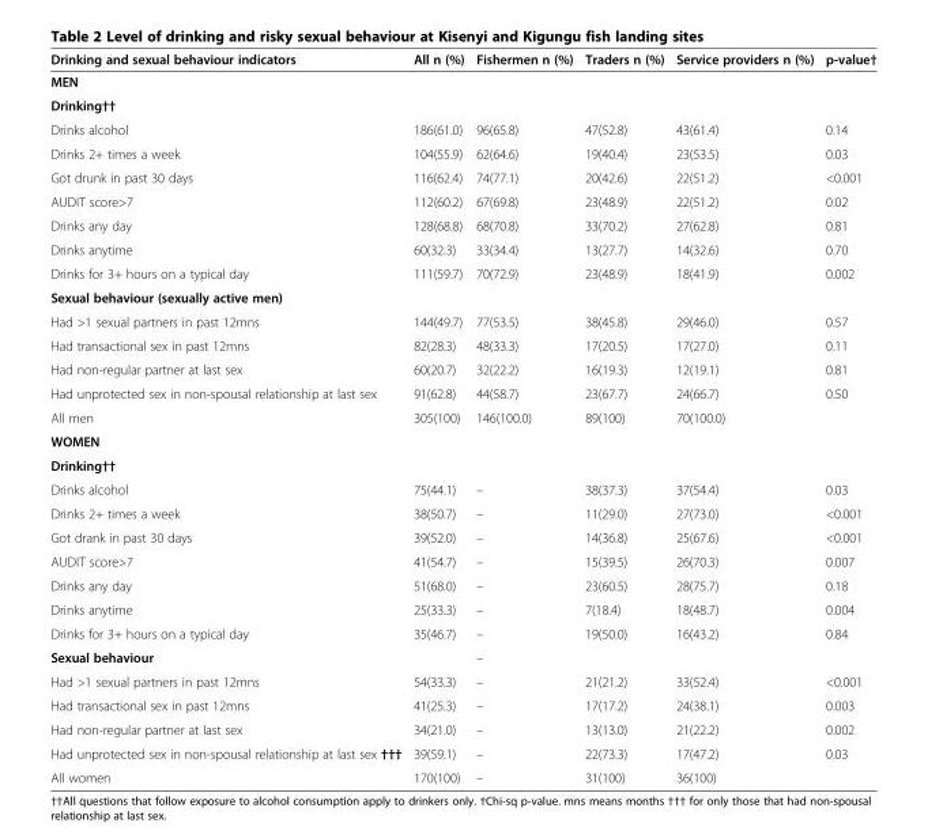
<table><thead><tr><td>Drinking and sexual behaviour indicators</td><td>All n (%)</td><td>Fishermen n (%)</td><td>Traders n (%)</td><td>Service providers n (%)</td><td>p-value†</td></tr></thead><tbody><tr><td colspan="6">MEN</td></tr><tr><td colspan="6">Drinking††</td></tr><tr><td>Drinks alcohol</td><td>186(61.0)</td><td>96(65.8)</td><td>47(52.8)</td><td>43(61.4)</td><td>0.14</td></tr><tr><td>Drinks 2+ times a week</td><td>104(55.9)</td><td>62(64.6)</td><td>19(40.4)</td><td>23(53.5)</td><td>0.03</td></tr><tr><td>Got drunk in past 30 days</td><td>116(62.4)</td><td>74(77.1)</td><td>20(42.6)</td><td>22(51.2)</td><td>&lt;0.001</td></tr><tr><td>AUDIT score&gt;7</td><td>112(60.2)</td><td>67(69.8)</td><td>23(48.9)</td><td>22(51.2)</td><td>0.02</td></tr><tr><td>Drinks any day</td><td>128(68.8)</td><td>68(70.8)</td><td>33(70.2)</td><td>27(62.8)</td><td>0.81</td></tr><tr><td>Drinks anytime</td><td>60(32.3)</td><td>33(34.4)</td><td>13(27.7)</td><td>14(32.6)</td><td>0.70</td></tr><tr><td>Drinks for 3+ hours on a typical day</td><td>111(59.7)</td><td>70(72.9)</td><td>23(48.9)</td><td>18(41.9)</td><td>0.002</td></tr><tr><td colspan="6">Sexual behaviour (sexually active men)</td></tr><tr><td>Had &gt;1 sexual partners in past 12mns</td><td>144(49.7)</td><td>77(53.5)</td><td>38(45.8)</td><td>29(46.0)</td><td>0.57</td></tr><tr><td>Had transactional sex in past 12mns</td><td>82(28.3)</td><td>48(33.3)</td><td>17(20.5)</td><td>17(27.0)</td><td>0.11</td></tr><tr><td>Had non-regular partner at last sex</td><td>60(20.7)</td><td>32(22.2)</td><td>16(19.3)</td><td>12(19.1)</td><td>0.81</td></tr><tr><td>Had unprotected sex in non-spousal relationship at last sex</td><td>91(62.8)</td><td>44(58.7)</td><td>23(67.7)</td><td>24(66.7)</td><td>0.50</td></tr><tr><td>All men</td><td>305(100)</td><td>146(100.0)</td><td>89(100)</td><td>70(100.0)</td><td></td></tr><tr><td colspan="6">WOMEN</td></tr><tr><td colspan="6">Drinking††</td></tr><tr><td>Drinks alcohol</td><td>75(44.1)</td><td>–</td><td>38(37.3)</td><td>37(54.4)</td><td>0.03</td></tr><tr><td>Drinks 2+ times a week</td><td>38(50.7)</td><td>–</td><td>11(29.0)</td><td>27(73.0)</td><td>&lt;0.001</td></tr><tr><td>Got drank in past 30 days</td><td>39(52.0)</td><td>–</td><td>14(36.8)</td><td>25(67.6)</td><td>&lt;0.001</td></tr><tr><td>AUDIT score&gt;7</td><td>41(54.7)</td><td>–</td><td>15(39.5)</td><td>26(70.3)</td><td>0.007</td></tr><tr><td>Drinks any day</td><td>51(68.0)</td><td>–</td><td>23(60.5)</td><td>28(75.7)</td><td>0.18</td></tr><tr><td>Drinks anytime</td><td>25(33.3)</td><td>–</td><td>7(18.4)</td><td>18(48.7)</td><td>0.004</td></tr><tr><td>Drinks for 3+ hours on a typical day</td><td>35(46.7)</td><td>–</td><td>19(50.0)</td><td>16(43.2)</td><td>0.84</td></tr><tr><td>Sexual behaviour</td><td></td><td>–</td><td></td><td></td><td></td></tr><tr><td>Had &gt;1 sexual partners in past 12mns</td><td>54(33.3)</td><td>–</td><td>21(21.2)</td><td>33(52.4)</td><td>&lt;0.001</td></tr><tr><td>Had transactional sex in past 12mns</td><td>41(25.3)</td><td>–</td><td>17(17.2)</td><td>24(38.1)</td><td>0.003</td></tr><tr><td>Had non-regular partner at last sex</td><td>34(21.0)</td><td>–</td><td>13(13.0)</td><td>21(22.2)</td><td>0.002</td></tr><tr><td>Had unprotected sex in non-spousal relationship at last sex †††</td><td>39(59.1)</td><td>–</td><td>22(73.3)</td><td>17(47.2)</td><td>0.03</td></tr><tr><td>All women</td><td>170(100)</td><td>–</td><td>31(100)</td><td>36(100)</td><td></td></tr></tbody></table>